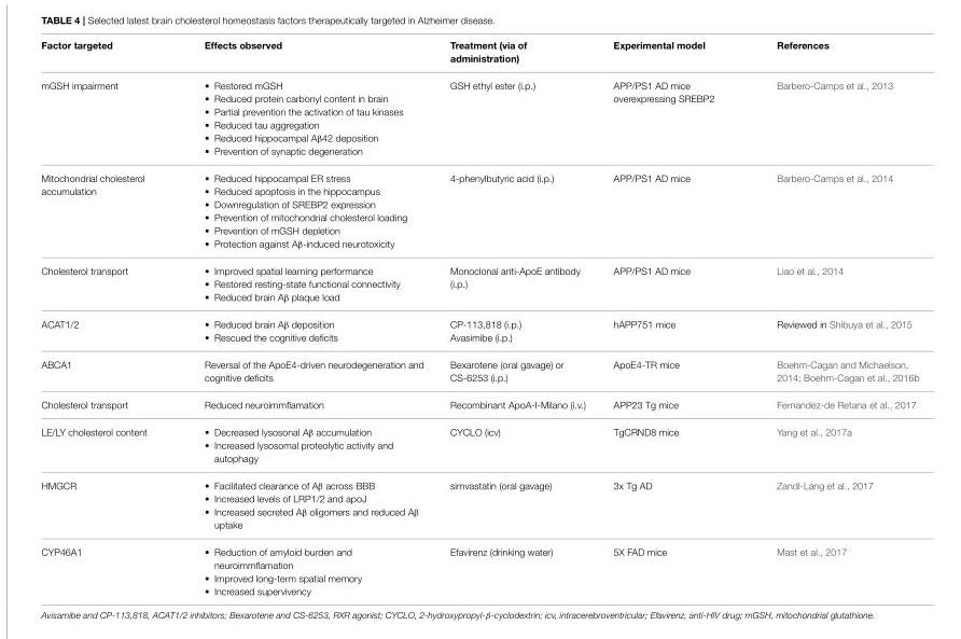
<table><thead><tr><td>Factor targeted</td><td>Effects observed</td><td>Treatment (via of administration)</td><td>Experimental model</td><td>References</td></tr></thead><tbody><tr><td>mGSH impairment</td><td>• Restored mGSH • Reduced protein carbonyl content in brain • Partial prevention the activation of tau kinases • Reduced tau aggregation • Reduced hippocampal Aβ42 deposition • Prevention of synaptic degeneration</td><td>GSH ethyl ester (i.p.)</td><td>APP/PS1 AD mice overexpressing SREBP2</td><td>Barbero-Camps et al., 2013</td></tr><tr><td>Mitochondrial cholesterol accumulation</td><td>• Reduced hippocampal ER stress • Reduced apoptosis in the hippocampus • Downregulation of SREBP2 expression • Prevention of mitochondrial cholesterol loading • Prevention of mGSH depletion • Protection against Aβ-induced neurotoxicity</td><td>4-phenylbutyric acid (i.p.)</td><td>APP/PS1 AD mice</td><td>Barbero-Camps et al., 2014</td></tr><tr><td>Cholesterol transport</td><td>• Improved spatial learning performance • Restored resting-state functional connectivity • Reduced brain Aβ plaque load</td><td>Monoclonal anti-ApoE antibody (i.p.)</td><td>APP/PS1 AD mice</td><td>Liao et al., 2014</td></tr><tr><td>ACAT1/2</td><td>• Reduced brain Aβ deposition • Rescued the cognitive deficits</td><td>CP-113,818 (i.p.) Avasimibe (i.p.)</td><td>hAPP751 mice</td><td>Reviewed in Shibuya et al., 2015</td></tr><tr><td>ABCA1</td><td>Reversal of the ApoE4-driven neurodegeneration and cognitive deficits</td><td>Bexarotene (oral gavage) or CS-6253 (i.p.)</td><td>ApoE4-TR mice</td><td>Boehm-Cagan and Michaelson, 2014; Boehm-Cagan et al., 2016b</td></tr><tr><td>Cholesterol transport</td><td>Reduced neuroimmflamation</td><td>Recombinant ApoA-I-Milano (i.v.)</td><td>APP23 Tg mice</td><td>Fernandez-de Retana et al., 2017</td></tr><tr><td>LE/LY cholesterol content</td><td>• Decreased lysosonal Aβ accumulation • Increased lysosomal proteolytic activity and autophagy</td><td>CYCLO (icv)</td><td>TgCRND8 mice</td><td>Yang et al., 2017a</td></tr><tr><td>HMGCR</td><td>• Facilitated clearance of Aβ across BBB • Increased levels of LRP1/2 and apoJ • Increased secreted Aβ oligomers and reduced Aβ uptake</td><td>simvastatin (oral gavage)</td><td>3x Tg AD</td><td>Zandl-Lang et al., 2017</td></tr><tr><td>CYP46A1</td><td>• Reduction of amyloid burden and neuroimmflamation • Improved long-term spatial memory • Increased supervivency</td><td>Efavirenz (drinking water)</td><td>5X FAD mice</td><td>Mast et al., 2017</td></tr></tbody></table>